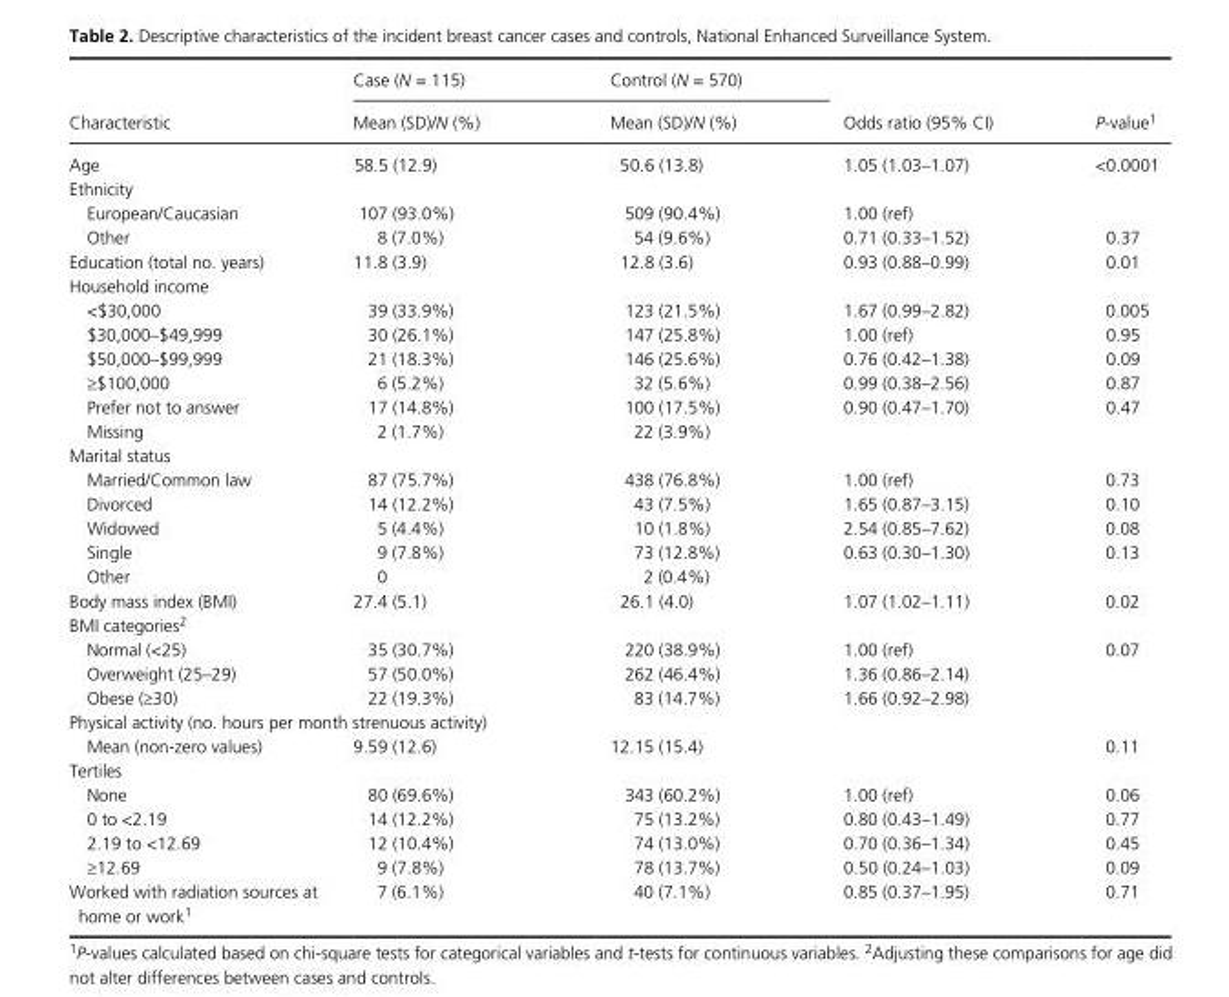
<table><thead><tr><td rowspan="2">Characteristic</td><td rowspan="2">Case (N = 115) Mean (SD)/N (%)</td><td rowspan="2">Control (N = 570) Mean (SD)/N (%)</td><td rowspan="2">Odds ratio (95% CI)</td><td rowspan="2">P- value1</td></tr><tr></tr></thead><tbody><tr><td>Age</td><td>58.5 (12.9)</td><td>50.6 (13.8)</td><td>1.05 (1.03–1.07)</td><td>&lt;0.0001</td></tr><tr><td colspan="5">Ethnicity</td></tr><tr><td>European/Caucasian</td><td>107 (93.0%)</td><td>509 (90.4%)</td><td>1.00 (ref)</td><td></td></tr><tr><td>Other</td><td>8 (7.0%)</td><td>54 (9.6%)</td><td>0.71 (0.33–1.52)</td><td>0.37</td></tr><tr><td>Education (total no. years)</td><td>11.8 (3.9)</td><td>12.8 (3.6)</td><td>0.93 (0.88–0.99)</td><td>0.01</td></tr><tr><td colspan="5">Household income</td></tr><tr><td>&lt;$30,000</td><td>39 (33.9%)</td><td>123 (21.5%)</td><td>1.67 (0.99–2.82)</td><td>0.005</td></tr><tr><td>$30,000–$49,999</td><td>30 (26.1%)</td><td>147 (25.8%)</td><td>1.00 (ref)</td><td>0.95</td></tr><tr><td>$50,000–$99,999</td><td>21 (18.3%)</td><td>146 (25.6%)</td><td>0.76 (0.42–1.38)</td><td>0.09</td></tr><tr><td>≥$100,000</td><td>6 (5.2%)</td><td>32 (5.6%)</td><td>0.99 (0.38–2.56)</td><td>0.87</td></tr><tr><td>Prefer not to answer</td><td>17 (14.8%)</td><td>100 (17.5%)</td><td>0.90 (0.47–1.70)</td><td>0.47</td></tr><tr><td>Missing</td><td>2 (1.7%)</td><td>22 (3.9%)</td><td></td><td></td></tr><tr><td colspan="5">Marital status</td></tr><tr><td>Married/Common law</td><td>87 (75.7%)</td><td>438 (76.8%)</td><td>1.00 (ref)</td><td>0.73</td></tr><tr><td>Divorced</td><td>14 (12.2%)</td><td>43 (7.5%)</td><td>1.65 (0.87–3.15)</td><td>0.10</td></tr><tr><td>Widowed</td><td>5 (4.4%)</td><td>10 (1.8%)</td><td>2.54 (0.85–7.62)</td><td>0.08</td></tr><tr><td>Single</td><td>9 (7.8%)</td><td>73 (12.8%)</td><td>0.63 (0.30–1.30)</td><td>0.13</td></tr><tr><td>Other</td><td>0</td><td>2 (0.4%)</td><td></td><td></td></tr><tr><td>Body mass index (BMI)</td><td>27.4 (5.1)</td><td>26.1 (4.0)</td><td>1.07 (1.02–1.11)</td><td>0.02</td></tr><tr><td colspan="5">BMI categories2</td></tr><tr><td>Normal (&lt;25)</td><td>35 (30.7%)</td><td>220 (38.9%)</td><td>1.00 (ref)</td><td>0.07</td></tr><tr><td>Overweight (25–29)</td><td>57 (50.0%)</td><td>262 (46.4%)</td><td>1.36 (0.86–2.14)</td><td></td></tr><tr><td>Obese (≥30)</td><td>22 (19.3%)</td><td>83 (14.7%)</td><td>1.66 (0.92–2.98)</td><td></td></tr><tr><td colspan="5">Physical activity (no. hours per month strenuous activity)</td></tr><tr><td>Mean (non- zero values)</td><td>9.59 (12.6)</td><td>12.15 (15.4)</td><td></td><td>0.11</td></tr><tr><td colspan="5">Tertiles</td></tr><tr><td>None</td><td>80 (69.6%)</td><td>343 (60.2%)</td><td>1.00 (ref)</td><td>0.06</td></tr><tr><td>0 to &lt;2.19</td><td>14 (12.2%)</td><td>75 (13.2%)</td><td>0.80 (0.43–1.49)</td><td>0.77</td></tr><tr><td>2.19 to &lt;12.69</td><td>12 (10.4%)</td><td>74 (13.0%)</td><td>0.70 (0.36–1.34)</td><td>0.45</td></tr><tr><td>≥12.69</td><td>9 (7.8%)</td><td>78 (13.7%)</td><td>0.50 (0.24–1.03)</td><td>0.09</td></tr><tr><td>Worked with radiation sources at home or work1</td><td>7 (6.1%)</td><td>40 (7.1%)</td><td>0.85 (0.37–1.95)</td><td>0.71</td></tr></tbody></table>